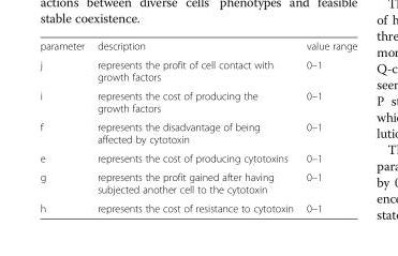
<table><tbody><tr><td>parameter</td><td>description</td><td>value range</td></tr><tr><td>j</td><td>represents the profit of cell contact with growth factors</td><td>0–1</td></tr><tr><td>i</td><td>represents the cost of producing the growth factors</td><td>0–1</td></tr><tr><td>f</td><td>represents the disadvantage of being affected by cytotoxin</td><td>0–1</td></tr><tr><td>e</td><td>represents the cost of producing cytotoxins</td><td>0–1</td></tr><tr><td>g</td><td>represents the profit gained after having subjected another cell to the cytotoxin</td><td>0–1</td></tr><tr><td>h</td><td>represents the cost of resistance to cytotoxin</td><td>0–1</td></tr></tbody></table>